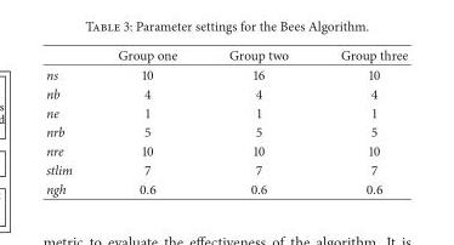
<table><thead><tr><td></td><td>Group one</td><td>Group two</td><td>Group three</td></tr></thead><tbody><tr><td>ns</td><td>10</td><td>16</td><td>10</td></tr><tr><td>nb</td><td>4</td><td>4</td><td>4</td></tr><tr><td>ne</td><td>1</td><td>1</td><td>1</td></tr><tr><td>nrb</td><td>5</td><td>5</td><td>5</td></tr><tr><td>nre</td><td>10</td><td>10</td><td>10</td></tr><tr><td>stlim</td><td>7</td><td>7</td><td>7</td></tr><tr><td>ngh</td><td>0.6</td><td>0.6</td><td>0.6</td></tr></tbody></table>